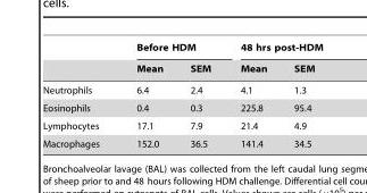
<table><thead><tr><td rowspan="2"></td><td colspan="2">Before HDM</td><td colspan="2">48 hrs post-HDM</td></tr><tr><td>Mean</td><td>SEM</td><td>Mean</td><td>SEM</td></tr></thead><tbody><tr><td>Neutrophils</td><td>6.4</td><td>2.4</td><td>4.1</td><td>1.3</td></tr><tr><td>Eosinophils</td><td>0.4</td><td>0.3</td><td>225.8</td><td>95.4</td></tr><tr><td>Lymphocytes</td><td>17.1</td><td>7.9</td><td>21.4</td><td>4.9</td></tr><tr><td>Macrophages</td><td>152.0</td><td>36.5</td><td>141.4</td><td>34.5</td></tr></tbody></table>